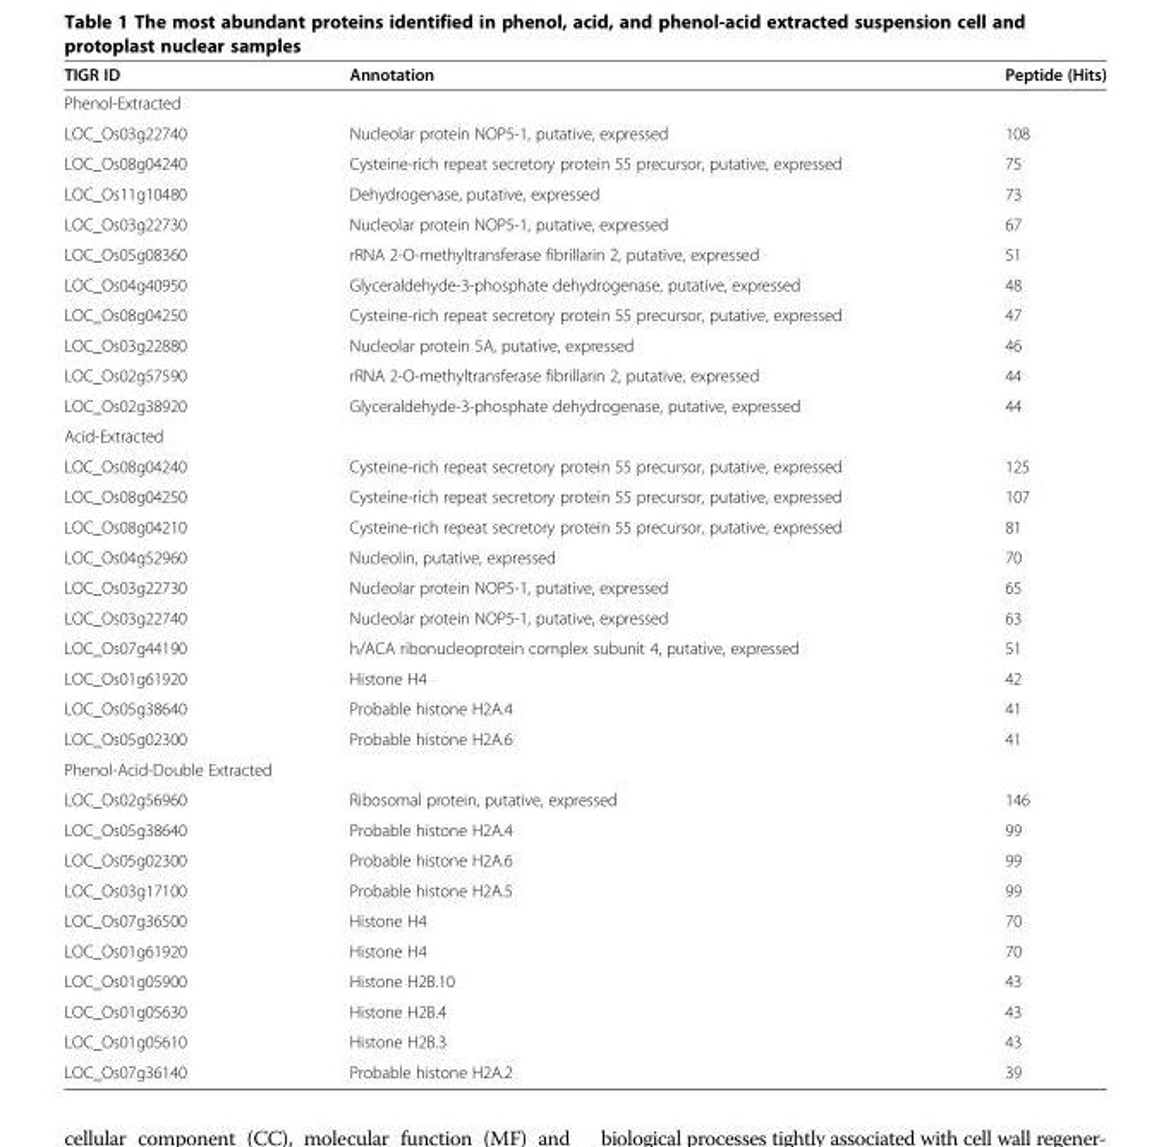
<table><thead><tr><td>TIGR ID</td><td>Annotation</td><td>Peptide (Hits)</td></tr></thead><tbody><tr><td colspan="3">Phenol-Extracted</td></tr><tr><td>LOC_Os03g22740</td><td>Nucleolar protein NOP5-1, putative, expressed</td><td>108</td></tr><tr><td>LOC_Os08g04240</td><td>Cysteine-rich repeat secretory protein 55 precursor, putative, expressed</td><td>75</td></tr><tr><td>LOC_Os11g10480</td><td>Dehydrogenase, putative, expressed</td><td>73</td></tr><tr><td>LOC_Os03g22730</td><td>Nucleolar protein NOP5-1, putative, expressed</td><td>67</td></tr><tr><td>LOC_Os05g08360</td><td>rRNA 2-O-methyltransferase fibrillarin 2, putative, expressed</td><td>51</td></tr><tr><td>LOC_Os04g40950</td><td>Glyceraldehyde-3-phosphate dehydrogenase, putative, expressed</td><td>48</td></tr><tr><td>LOC_Os08g04250</td><td>Cysteine-rich repeat secretory protein 55 precursor, putative, expressed</td><td>47</td></tr><tr><td>LOC_Os03g22880</td><td>Nucleolar protein 5A, putative, expressed</td><td>46</td></tr><tr><td>LOC_Os02g57590</td><td>rRNA 2-O-methyltransferase fibrillarin 2, putative, expressed</td><td>44</td></tr><tr><td>LOC_Os02g38920</td><td>Glyceraldehyde-3-phosphate dehydrogenase, putative, expressed</td><td>44</td></tr><tr><td colspan="3">Acid-Extracted</td></tr><tr><td>LOC_Os08g04240</td><td>Cysteine-rich repeat secretory protein 55 precursor, putative, expressed</td><td>125</td></tr><tr><td>LOC_Os08g04250</td><td>Cysteine-rich repeat secretory protein 55 precursor, putative, expressed</td><td>107</td></tr><tr><td>LOC_Os08g04210</td><td>Cysteine-rich repeat secretory protein 55 precursor, putative, expressed</td><td>81</td></tr><tr><td>LOC_Os04g52960</td><td>Nucleolin, putative, expressed</td><td>70</td></tr><tr><td>LOC_Os03g22730</td><td>Nucleolar protein NOP5-1, putative, expressed</td><td>65</td></tr><tr><td>LOC_Os03g22740</td><td>Nucleolar protein NOP5-1, putative, expressed</td><td>63</td></tr><tr><td>LOC_Os07g44190</td><td>h/ACA ribonucleoprotein complex subunit 4, putative, expressed</td><td>51</td></tr><tr><td>LOC_Os01g61920</td><td>Histone H4</td><td>42</td></tr><tr><td>LOC_Os05g38640</td><td>Probable histone H2A.4</td><td>41</td></tr><tr><td>LOC_Os05g02300</td><td>Probable histone H2A.6</td><td>41</td></tr><tr><td colspan="3">Phenol-Acid-Double Extracted</td></tr><tr><td>LOC_Os02g56960</td><td>Ribosomal protein, putative, expressed</td><td>146</td></tr><tr><td>LOC_Os05g38640</td><td>Probable histone H2A.4</td><td>99</td></tr><tr><td>LOC_Os05g02300</td><td>Probable histone H2A.6</td><td>99</td></tr><tr><td>LOC_Os03g17100</td><td>Probable histone H2A.5</td><td>99</td></tr><tr><td>LOC_Os07g36500</td><td>Histone H4</td><td>70</td></tr><tr><td>LOC_Os01g61920</td><td>Histone H4</td><td>70</td></tr><tr><td>LOC_Os01g05900</td><td>Histone H2B.10</td><td>43</td></tr><tr><td>LOC_Os01g05630</td><td>Histone H2B.4</td><td>43</td></tr><tr><td>LOC_Os01g05610</td><td>Histone H2B.3</td><td>43</td></tr><tr><td>LOC_Os07g36140</td><td>Probable histone H2A.2</td><td>39</td></tr></tbody></table>